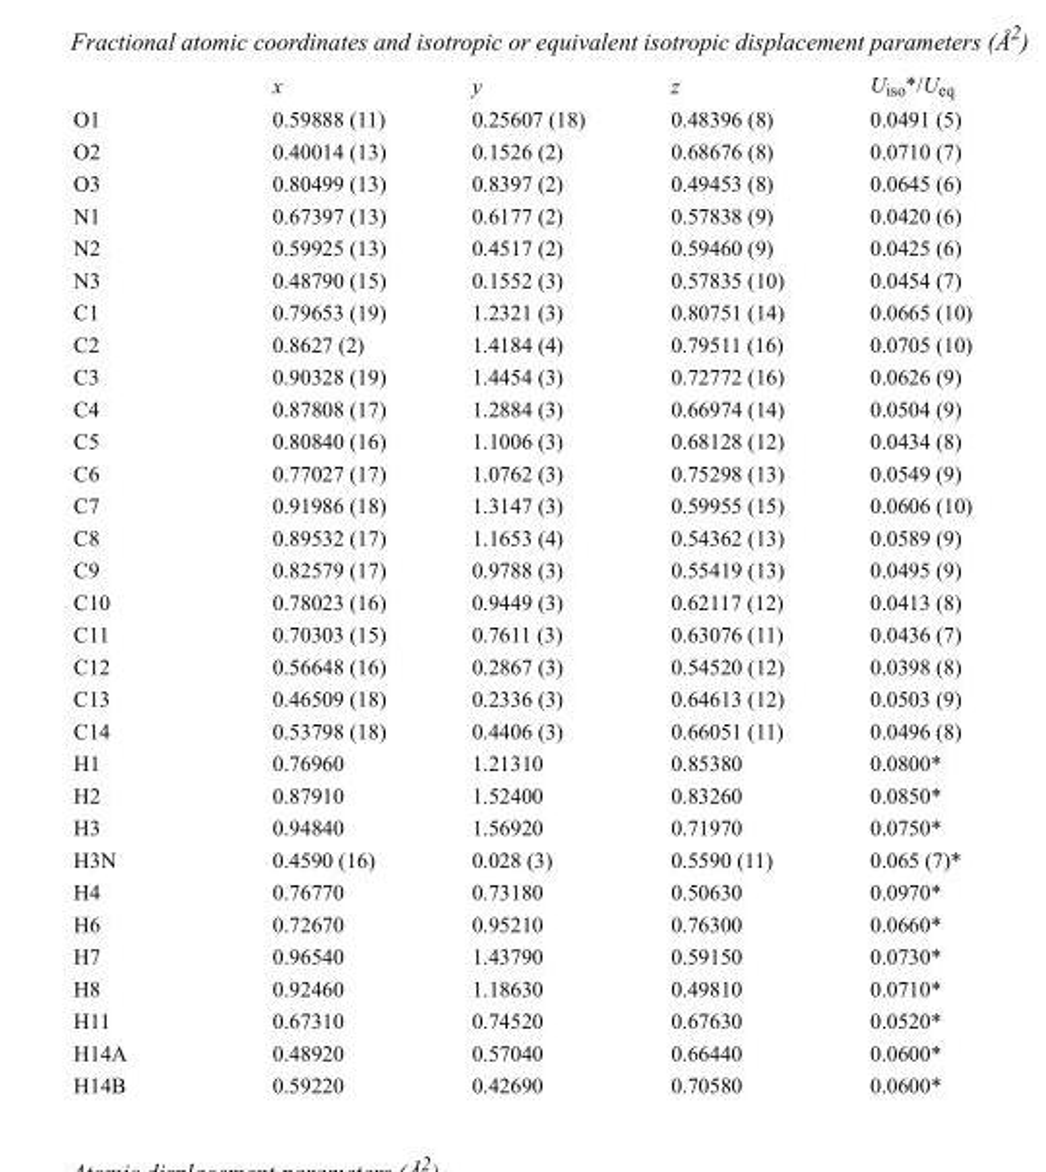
<table><thead><tr><td></td><td>x</td><td>y</td><td>z</td><td>U<sub>iso</sub>*/U<sub>eq</sub></td></tr></thead><tbody><tr><td>O1</td><td>0.59888 (11)</td><td>0.25607 (18)</td><td>0.48396 (8)</td><td>0.0491 (5)</td></tr><tr><td>O2</td><td>0.40014 (13)</td><td>0.1526 (2)</td><td>0.68676 (8)</td><td>0.0710 (7)</td></tr><tr><td>O3</td><td>0.80499 (13)</td><td>0.8397 (2)</td><td>0.49453 (8)</td><td>0.0645 (6)</td></tr><tr><td>N1</td><td>0.67397 (13)</td><td>0.6177 (2)</td><td>0.57838 (9)</td><td>0.0420 (6)</td></tr><tr><td>N2</td><td>0.59925 (13)</td><td>0.4517 (2)</td><td>0.59460 (9)</td><td>0.0425 (6)</td></tr><tr><td>N3</td><td>0.48790 (15)</td><td>0.1552 (3)</td><td>0.57835 (10)</td><td>0.0454 (7)</td></tr><tr><td>C1</td><td>0.79653 (19)</td><td>1.2321 (3)</td><td>0.80751 (14)</td><td>0.0665 (10)</td></tr><tr><td>C2</td><td>0.8627 (2)</td><td>1.4184 (4)</td><td>0.79511 (16)</td><td>0.0705 (10)</td></tr><tr><td>C3</td><td>0.90328 (19)</td><td>1.4454 (3)</td><td>0.72772 (16)</td><td>0.0626 (9)</td></tr><tr><td>C4</td><td>0.87808 (17)</td><td>1.2884 (3)</td><td>0.66974 (14)</td><td>0.0504 (9)</td></tr><tr><td>C5</td><td>0.80840 (16)</td><td>1.1006 (3)</td><td>0.68128 (12)</td><td>0.0434 (8)</td></tr><tr><td>C6</td><td>0.77027 (17)</td><td>1.0762 (3)</td><td>0.75298 (13)</td><td>0.0549 (9)</td></tr><tr><td>C7</td><td>0.91986 (18)</td><td>1.3147 (3)</td><td>0.59955 (15)</td><td>0.0606 (10)</td></tr><tr><td>C8</td><td>0.89532 (17)</td><td>1.1653 (4)</td><td>0.54362 (13)</td><td>0.0589 (9)</td></tr><tr><td>C9</td><td>0.82579 (17)</td><td>0.9788 (3)</td><td>0.55419 (13)</td><td>0.0495 (9)</td></tr><tr><td>C10</td><td>0.78023 (16)</td><td>0.9449 (3)</td><td>0.62117 (12)</td><td>0.0413 (8)</td></tr><tr><td>C11</td><td>0.70303 (15)</td><td>0.7611 (3)</td><td>0.63076 (11)</td><td>0.0436 (7)</td></tr><tr><td>C12</td><td>0.56648 (16)</td><td>0.2867 (3)</td><td>0.54520 (12)</td><td>0.0398 (8)</td></tr><tr><td>C13</td><td>0.46509 (18)</td><td>0.2336 (3)</td><td>0.64613 (12)</td><td>0.0503 (9)</td></tr><tr><td>C14</td><td>0.53798 (18)</td><td>0.4406 (3)</td><td>0.66051 (11)</td><td>0.0496 (8)</td></tr><tr><td>H1</td><td>0.76960</td><td>1.21310</td><td>0.85380</td><td>0.0800*</td></tr><tr><td>H2</td><td>0.87910</td><td>1.52400</td><td>0.83260</td><td>0.0850*</td></tr><tr><td>H3</td><td>0.94840</td><td>1.56920</td><td>0.71970</td><td>0.0750*</td></tr><tr><td>H3N</td><td>0.4590 (16)</td><td>0.028 (3)</td><td>0.5590 (11)</td><td>0.065 (7)*</td></tr><tr><td>H4</td><td>0.76770</td><td>0.73180</td><td>0.50630</td><td>0.0970*</td></tr><tr><td>H6</td><td>0.72670</td><td>0.95210</td><td>0.76300</td><td>0.0660*</td></tr><tr><td>H7</td><td>0.96540</td><td>1.43790</td><td>0.59150</td><td>0.0730*</td></tr><tr><td>H8</td><td>0.92460</td><td>1.18630</td><td>0.49810</td><td>0.0710*</td></tr><tr><td>H11</td><td>0.67310</td><td>0.74520</td><td>0.67630</td><td>0.0520*</td></tr><tr><td>H14A</td><td>0.48920</td><td>0.57040</td><td>0.66440</td><td>0.0600*</td></tr><tr><td>H14B</td><td>0.59220</td><td>0.42690</td><td>0.70580</td><td>0.0600*</td></tr></tbody></table>